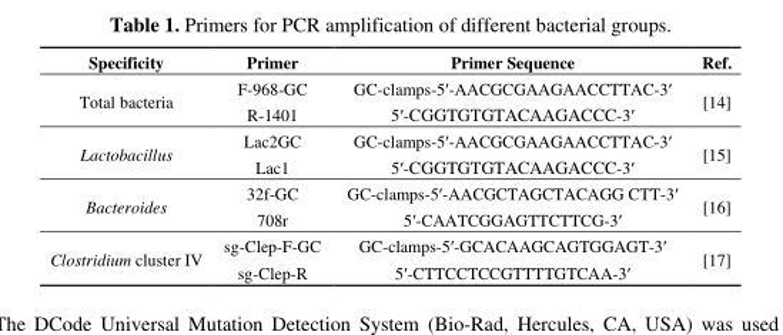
<table><thead><tr><td>Specificity</td><td>Primer</td><td>Primer Sequence</td><td>Ref.</td></tr></thead><tbody><tr><td rowspan="2">Total bacteria</td><td>F-968-GC</td><td>GC-clamps-5′-AACGCGAAGAACCTTAC-3′</td><td rowspan="2">[14]</td></tr><tr><td>R-1401</td><td>5′-CGGTGTGTACAAGACCC-3′</td></tr><tr><td rowspan="2">Lactobacillus</td><td>Lac2GC</td><td>GC-clamps-5′-AACGCGAAGAACCTTAC-3′</td><td rowspan="2">[15]</td></tr><tr><td>Lac1</td><td>5′-CGGTGTGTACAAGACCC-3′</td></tr><tr><td rowspan="2">Bacteroides</td><td>32f-GC</td><td>GC-clamps-5′-AACGCTAGCTACAGG CTT-3′</td><td rowspan="2">[16]</td></tr><tr><td>708r</td><td>5′-CAATCGGAGTTCTTCG-3′</td></tr><tr><td rowspan="2">Clostridium cluster IV</td><td>sg-Clep-F-GC</td><td>GC-clamps-5′-GCACAAGCAGTGGAGT-3′</td><td rowspan="2">[17]</td></tr><tr><td>sg-Clep-R</td><td>5′-CTTCCTCCGTTTTGTCAA-3′</td></tr></tbody></table>